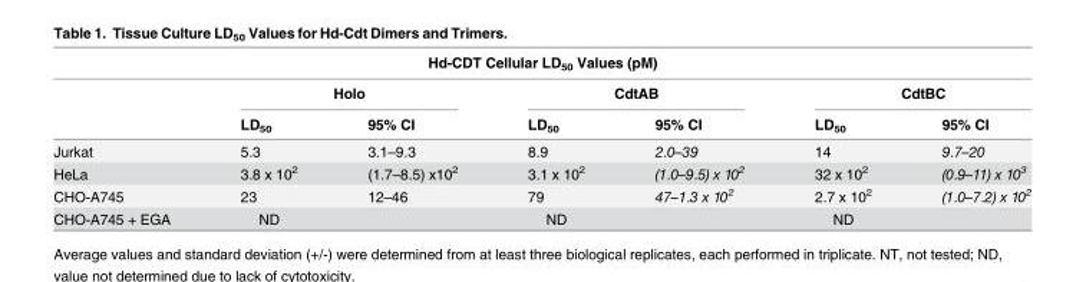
<table><thead><tr><td colspan="7">Hd-CDT Cellular LD<sub>50</sub> Values (pM)</td></tr><tr><td rowspan="2"></td><td colspan="2">Holo</td><td colspan="2">CdtAB</td><td colspan="2">CdtBC</td></tr><tr><td>LD<sub>50</sub></td><td>95% CI</td><td>LD<sub>50</sub></td><td>95% CI</td><td>LD<sub>50</sub></td><td>95% CI</td></tr></thead><tbody><tr><td>Jurkat</td><td>5.3</td><td>3.1–9.3</td><td>8.9</td><td>2.0–39</td><td>14</td><td>9.7–20</td></tr><tr><td>HeLa</td><td>3.8 x 10<sup>2</sup></td><td>(1.7–8.5) x10<sup>2</sup></td><td>3.1 x 10<sup>2</sup></td><td>(1.0–9.5) x 10<sup>2</sup></td><td>32 x 10<sup>2</sup></td><td>(0.9–11) x 10<sup>3</sup></td></tr><tr><td>CHO-A745</td><td>23</td><td>12–46</td><td>79</td><td>47–1.3 x 10<sup>2</sup></td><td>2.7 x 10<sup>2</sup></td><td>(1.0–7.2) x 10<sup>2</sup></td></tr><tr><td>CHO-A745 + EGA</td><td>ND</td><td></td><td>ND</td><td></td><td>ND</td><td></td></tr></tbody></table>